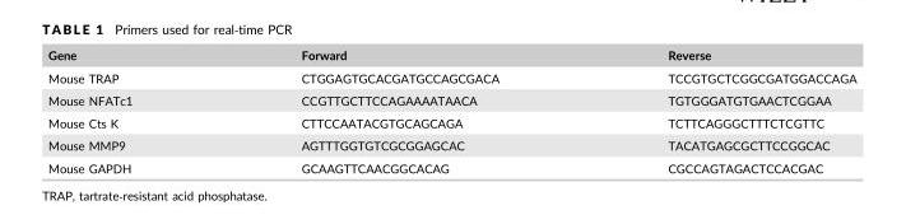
<table><thead><tr><td>Gene</td><td>Forward</td><td>Reverse</td></tr></thead><tbody><tr><td>Mouse TRAP</td><td>CTGGAGTGCACGATGCCAGCGACA</td><td>TCCGTGCTCGGCGATGGACCAGA</td></tr><tr><td>Mouse NFATc1</td><td>CCGTTGCTTCCAGAAAATAACA</td><td>TGTGGGATGTGAACTCGGAA</td></tr><tr><td>Mouse Cts K</td><td>CTTCCAATACGTGCAGCAGA</td><td>TCTTCAGGGCTTTCTCGTTC</td></tr><tr><td>Mouse MMP9</td><td>AGTTTGGTGTCGCGGAGCAC</td><td>TACATGAGCGCTTCCGGCAC</td></tr><tr><td>Mouse GAPDH</td><td>GCAAGTTCAACGGCACAG</td><td>CGCCAGTAGACTCCACGAC</td></tr></tbody></table>